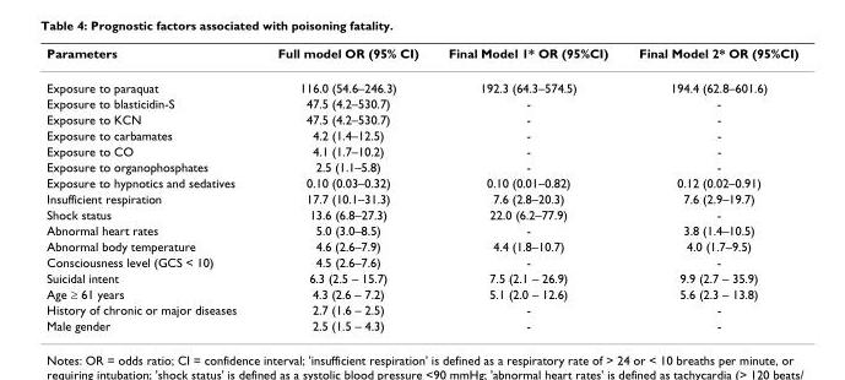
<table><thead><tr><td>Parameters</td><td>Full model OR (95% CI)</td><td>Final Model 1* OR (95%CI)</td><td>Final Model 2* OR (95%CI)</td></tr></thead><tbody><tr><td>Exposure to paraquat</td><td>116.0 (54.6–246.3)</td><td>192.3 (64.3–574.5)</td><td>194.4 (62.8–601.6)</td></tr><tr><td>Exposure to blasticidin-S</td><td>47.5 (4.2–530.7)</td><td>-</td><td>-</td></tr><tr><td>Exposure to KCN</td><td>47.5 (4.2–530.7)</td><td>-</td><td>-</td></tr><tr><td>Exposure to carbamates</td><td>4.2 (1.4–12.5)</td><td>-</td><td>-</td></tr><tr><td>Exposure to CO</td><td>4.1 (1.7–10.2)</td><td>-</td><td>-</td></tr><tr><td>Exposure to organophosphates</td><td>2.5 (1.1–5.8)</td><td>-</td><td>-</td></tr><tr><td>Exposure to hypnotics and sedatives</td><td>0.10 (0.03–0.32)</td><td>0.10 (0.01–0.82)</td><td>0.12 (0.02–0.91)</td></tr><tr><td>Insufficient respiration</td><td>17.7 (10.1–31.3)</td><td>7.6 (2.8–20.3)</td><td>7.6 (2.9–19.7)</td></tr><tr><td>Shock status</td><td>13.6 (6.8–27.3)</td><td>22.0 (6.2–77.9)</td><td>-</td></tr><tr><td>Abnormal heart rates</td><td>5.0 (3.0–8.5)</td><td>-</td><td>3.8 (1.4–10.5)</td></tr><tr><td>Abnormal body temperature</td><td>4.6 (2.6–7.9)</td><td>4.4 (1.8–10.7)</td><td>4.0 (1.7–9.5)</td></tr><tr><td>Consciousness level (GCS &lt; 10)</td><td>4.5 (2.6–7.6)</td><td>-</td><td>-</td></tr><tr><td>Suicidal intent</td><td>6.3 (2.5 – 15.7)</td><td>7.5 (2.1 – 26.9)</td><td>9.9 (2.7 – 35.9)</td></tr><tr><td>Age ≥ 61 years</td><td>4.3 (2.6 – 7.2)</td><td>5.1 (2.0 – 12.6)</td><td>5.6 (2.3 – 13.8)</td></tr><tr><td>History of chronic or major diseases</td><td>2.7 (1.6 – 2.5)</td><td>-</td><td>-</td></tr><tr><td>Male gender</td><td>2.5 (1.5 – 4.3)</td><td>-</td><td>-</td></tr></tbody></table>